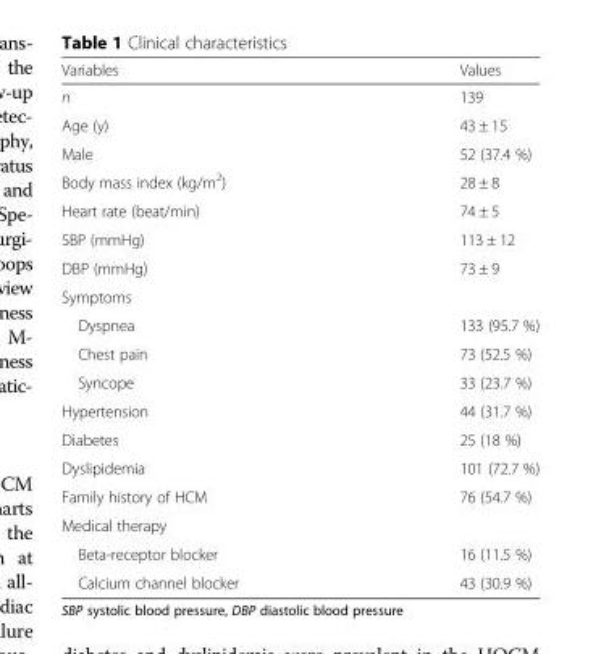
<table><thead><tr><td>Variables</td><td>Values</td></tr></thead><tbody><tr><td>n</td><td>139</td></tr><tr><td>Age (y)</td><td>43 ± 15</td></tr><tr><td>Male</td><td>52 (37.4 %)</td></tr><tr><td>Body mass index (kg/m<sup>2</sup>)</td><td>28 ± 8</td></tr><tr><td>Heart rate (beat/min)</td><td>74 ± 5</td></tr><tr><td>SBP (mmHg)</td><td>113 ± 12</td></tr><tr><td>DBP (mmHg)</td><td>73 ± 9</td></tr><tr><td colspan="2">Symptoms</td></tr><tr><td>Dyspnea</td><td>133 (95.7 %)</td></tr><tr><td>Chest pain</td><td>73 (52.5 %)</td></tr><tr><td>Syncope</td><td>33 (23.7 %)</td></tr><tr><td>Hypertension</td><td>44 (31.7 %)</td></tr><tr><td>Diabetes</td><td>25 (18 %)</td></tr><tr><td>Dyslipidemia</td><td>101 (72.7 %)</td></tr><tr><td>Family history of HCM</td><td>76 (54.7 %)</td></tr><tr><td colspan="2">Medical therapy</td></tr><tr><td>Beta-receptor blocker</td><td>16 (11.5 %)</td></tr><tr><td>Calcium channel blocker</td><td>43 (30.9 %)</td></tr></tbody></table>